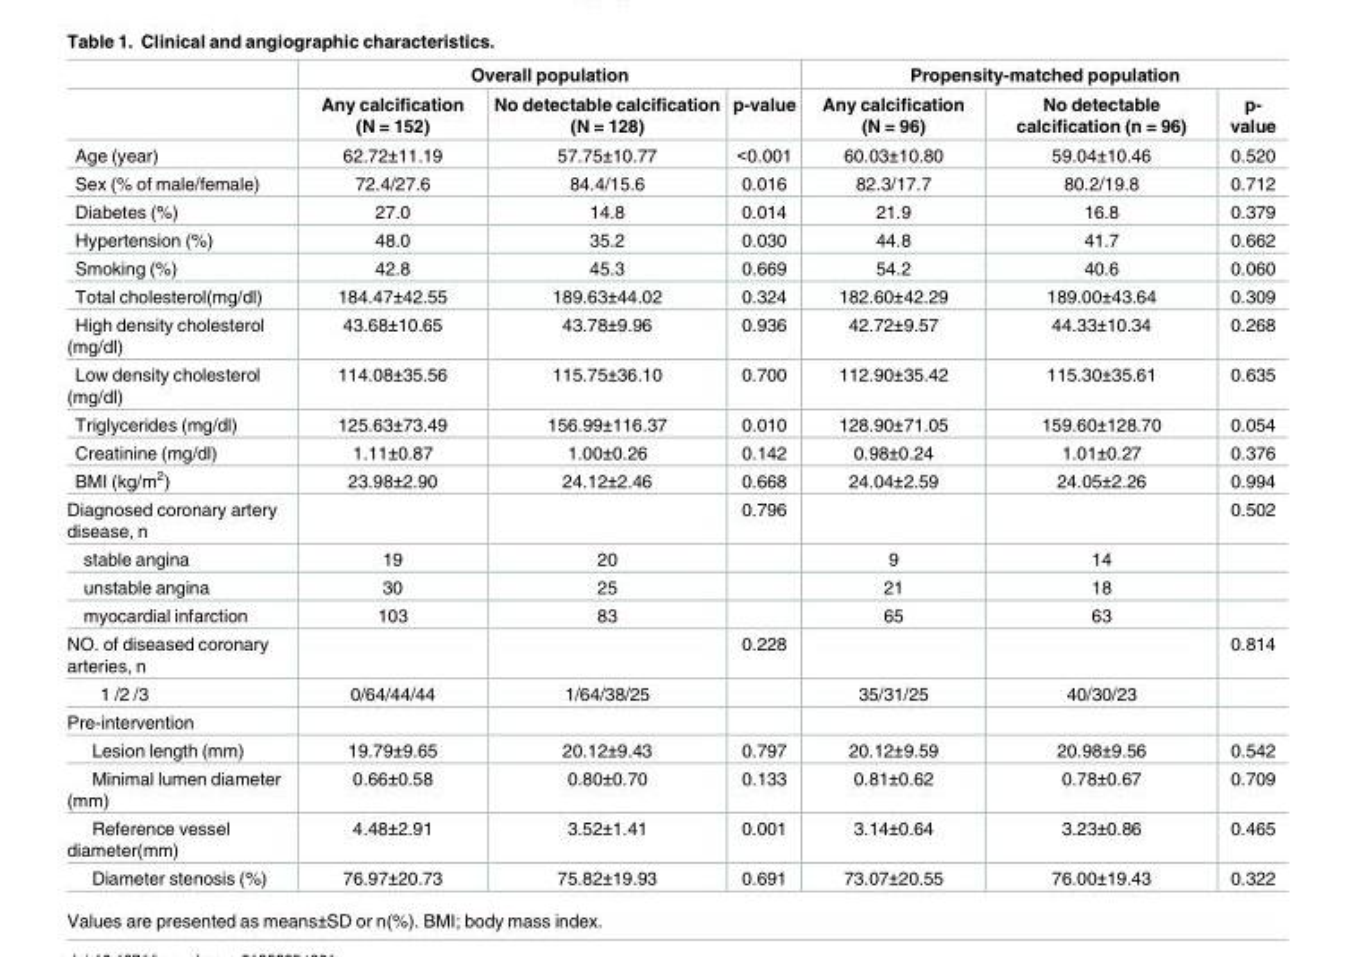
<table><thead><tr><td rowspan="2"></td><td colspan="3">Overall population</td><td colspan="3">Propensity-matched population</td></tr><tr><td>Any calcification (N = 152)</td><td>No detectable calcification (N = 128)</td><td>p-value</td><td>Any calcification (N = 96)</td><td>No detectable calcification (n = 96)</td><td>p- value</td></tr></thead><tbody><tr><td>Age (year)</td><td>62.72±11.19</td><td>57.75±10.77</td><td>&lt;0.001</td><td>60.03±10.80</td><td>59.04±10.46</td><td>0.520</td></tr><tr><td>Sex (% of male/female)</td><td>72.4/27.6</td><td>84.4/15.6</td><td>0.016</td><td>82.3/17.7</td><td>80.2/19.8</td><td>0.712</td></tr><tr><td>Diabetes (%)</td><td>27.0</td><td>14.8</td><td>0.014</td><td>21.9</td><td>16.8</td><td>0.379</td></tr><tr><td>Hypertension (%)</td><td>48.0</td><td>35.2</td><td>0.030</td><td>44.8</td><td>41.7</td><td>0.662</td></tr><tr><td>Smoking (%)</td><td>42.8</td><td>45.3</td><td>0.669</td><td>54.2</td><td>40.6</td><td>0.060</td></tr><tr><td>Total cholesterol(mg/dl)</td><td>184.47±42.55</td><td>189.63±44.02</td><td>0.324</td><td>182.60±42.29</td><td>189.00±43.64</td><td>0.309</td></tr><tr><td>High density cholesterol (mg/dl)</td><td>43.68±10.65</td><td>43.78±9.96</td><td>0.936</td><td>42.72±9.57</td><td>44.33±10.34</td><td>0.268</td></tr><tr><td>Low density cholesterol (mg/dl)</td><td>114.08±35.56</td><td>115.75±36.10</td><td>0.700</td><td>112.90±35.42</td><td>115.30±35.61</td><td>0.635</td></tr><tr><td>Triglycerides (mg/dl)</td><td>125.63±73.49</td><td>156.99±116.37</td><td>0.010</td><td>128.90±71.05</td><td>159.60±128.70</td><td>0.054</td></tr><tr><td>Creatinine (mg/dl)</td><td>1.11±0.87</td><td>1.00±0.26</td><td>0.142</td><td>0.98±0.24</td><td>1.01±0.27</td><td>0.376</td></tr><tr><td>BMI (kg/m<sup>2</sup>)</td><td>23.98±2.90</td><td>24.12±2.46</td><td>0.668</td><td>24.04±2.59</td><td>24.05±2.26</td><td>0.994</td></tr><tr><td>Diagnosed coronary artery disease, n</td><td></td><td></td><td>0.796</td><td></td><td></td><td>0.502</td></tr><tr><td>stable angina</td><td>19</td><td>20</td><td></td><td>9</td><td>14</td><td></td></tr><tr><td>unstable angina</td><td>30</td><td>25</td><td></td><td>21</td><td>18</td><td></td></tr><tr><td>myocardial infarction</td><td>103</td><td>83</td><td></td><td>65</td><td>63</td><td></td></tr><tr><td>NO. of diseased coronary arteries, n</td><td></td><td></td><td>0.228</td><td></td><td></td><td>0.814</td></tr><tr><td>1 /2 /3</td><td>0/64/44/44</td><td>1/64/38/25</td><td></td><td>35/31/25</td><td>40/30/23</td><td></td></tr><tr><td colspan="7">Pre-intervention</td></tr><tr><td>Lesion length (mm)</td><td>19.79±9.65</td><td>20.12±9.43</td><td>0.797</td><td>20.12±9.59</td><td>20.98±9.56</td><td>0.542</td></tr><tr><td>Minimal lumen diameter (mm)</td><td>0.66±0.58</td><td>0.80±0.70</td><td>0.133</td><td>0.81±0.62</td><td>0.78±0.67</td><td>0.709</td></tr><tr><td>Reference vessel diameter(mm)</td><td>4.48±2.91</td><td>3.52±1.41</td><td>0.001</td><td>3.14±0.64</td><td>3.23±0.86</td><td>0.465</td></tr><tr><td>Diameter stenosis (%)</td><td>76.97±20.73</td><td>75.82±19.93</td><td>0.691</td><td>73.07±20.55</td><td>76.00±19.43</td><td>0.322</td></tr></tbody></table>